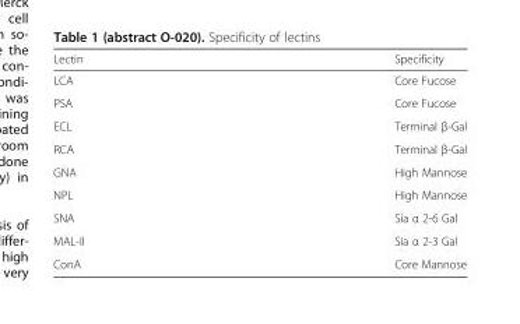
<table><thead><tr><td>Lectin</td><td>Specificity</td></tr></thead><tbody><tr><td>LCA</td><td>Core Fucose</td></tr><tr><td>PSA</td><td>Core Fucose</td></tr><tr><td>ECL</td><td>Terminal β-Gal</td></tr><tr><td>RCA</td><td>Terminal β-Gal</td></tr><tr><td>GNA</td><td>High Mannose</td></tr><tr><td>NPL</td><td>High Mannose</td></tr><tr><td>SNA</td><td>Sia α 2-6 Gal</td></tr><tr><td>MAL-II</td><td>Sia α 2-3 Gal</td></tr><tr><td>ConA</td><td>Core Mannose</td></tr></tbody></table>